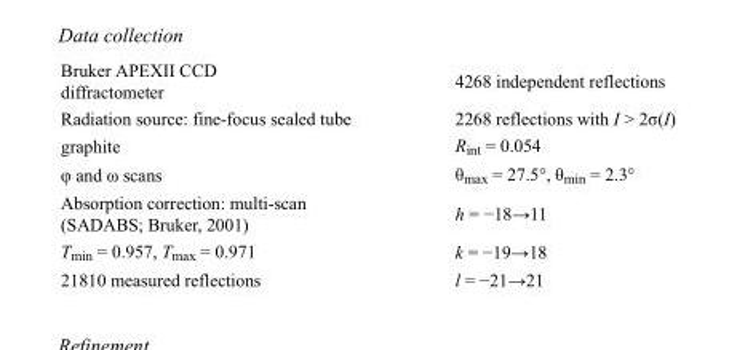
<table><tbody><tr><td>Bruker APEXII CCD diffractometer</td><td>4268 independent reflections</td></tr><tr><td>Radiation source: fine-focus sealed tube</td><td>2268 reflections with I &gt; 2σ(I)</td></tr><tr><td>graphite</td><td>R<sub>int</sub> = 0.054</td></tr><tr><td>φ and ω scans</td><td>θ<sub>max</sub> = 27.5°, θ<sub>min</sub> = 2.3°</td></tr><tr><td>Absorption correction: multi-scan (SADABS; Bruker, 2001)</td><td>h = −18→11</td></tr><tr><td>T<sub>min</sub> = 0.957, T<sub>max</sub> = 0.971</td><td>k = −19→18</td></tr><tr><td>21810 measured reflections</td><td>l = −21→21</td></tr></tbody></table>